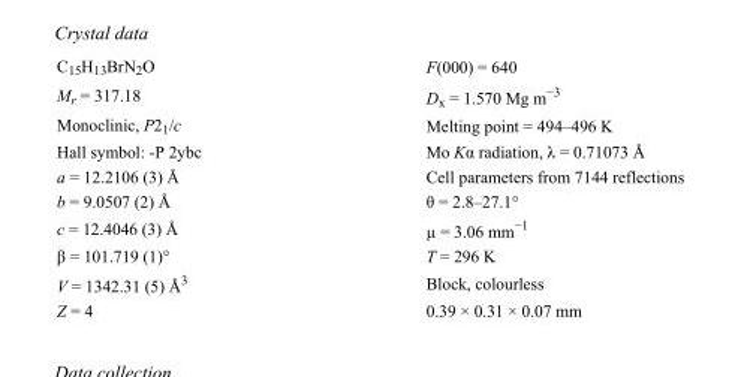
<table><tbody><tr><td>C<sub>15</sub>H<sub>13</sub>BrN<sub>2</sub>O</td><td>F(000) = 640</td></tr><tr><td>M<sub>r</sub> = 317.18</td><td>D<sub>x</sub> = 1.570 Mg m<sup>−3</sup></td></tr><tr><td>Monoclinic, P2<sub>1</sub>/c</td><td>Melting point = 494–496 K</td></tr><tr><td>Hall symbol: -P 2ybc</td><td>Mo Kα radiation, λ = 0.71073 Å</td></tr><tr><td>a = 12.2106 (3) Å</td><td>Cell parameters from 7144 reflections</td></tr><tr><td>b = 9.0507 (2) Å</td><td>θ = 2.8–27.1°</td></tr><tr><td>c = 12.4046 (3) Å</td><td>µ = 3.06 mm<sup>−1</sup></td></tr><tr><td>β = 101.719 (1)°</td><td>T = 296 K</td></tr><tr><td>V = 1342.31 (5) Å<sup>3</sup></td><td>Block, colourless</td></tr><tr><td>Z = 4</td><td>0.39 × 0.31 × 0.07 mm</td></tr></tbody></table>